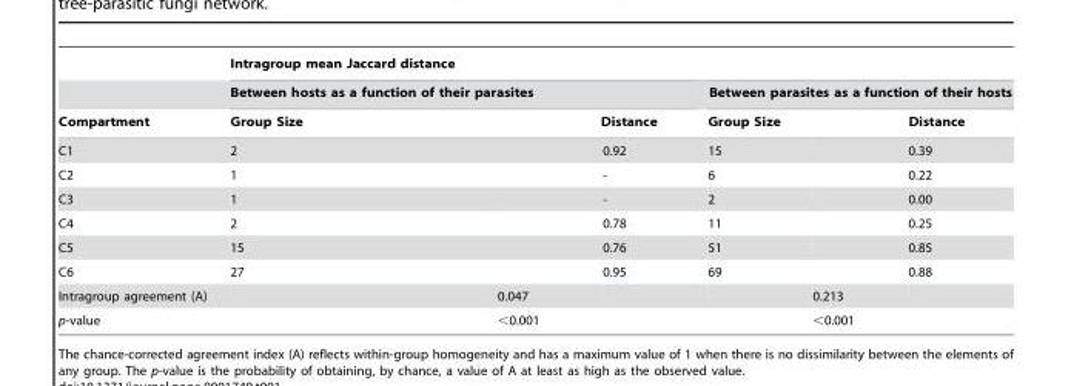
<table><thead><tr><td rowspan="3">Compartment</td><td colspan="6">Intragroup mean Jaccard distance</td></tr><tr><td colspan="3">Between hosts as a function of their parasites</td><td colspan="3">Between parasites as a function of their hosts</td></tr><tr><td>Group Size</td><td></td><td>Distance</td><td>Group Size</td><td></td><td>Distance</td></tr></thead><tbody><tr><td>C1</td><td>2</td><td></td><td>0.92</td><td>15</td><td></td><td>0.39</td></tr><tr><td>C2</td><td>1</td><td></td><td>-</td><td>6</td><td></td><td>0.22</td></tr><tr><td>C3</td><td>1</td><td></td><td>-</td><td>2</td><td></td><td>0.00</td></tr><tr><td>C4</td><td>2</td><td></td><td>0.78</td><td>11</td><td></td><td>0.25</td></tr><tr><td>C5</td><td>15</td><td></td><td>0.76</td><td>51</td><td></td><td>0.85</td></tr><tr><td>C6</td><td>27</td><td></td><td>0.95</td><td>69</td><td></td><td>0.88</td></tr><tr><td>Intragroup agreement (A)</td><td></td><td>0.047</td><td></td><td></td><td>0.213</td><td></td></tr><tr><td>p-value</td><td></td><td>&lt;0.001</td><td></td><td></td><td>&lt;0.001</td><td></td></tr></tbody></table>